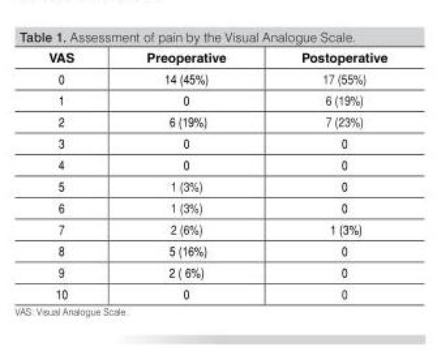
<table><thead><tr><td>VAS</td><td>Preoperative</td><td>Postoperative</td></tr></thead><tbody><tr><td>0</td><td>14 (45%)</td><td>17 (55%)</td></tr><tr><td>1</td><td>0</td><td>6 (19%)</td></tr><tr><td>2</td><td>6 (19%)</td><td>7 (23%)</td></tr><tr><td>3</td><td>0</td><td>0</td></tr><tr><td>4</td><td>0</td><td>0</td></tr><tr><td>5</td><td>1 (3%)</td><td>0</td></tr><tr><td>6</td><td>1 (3%)</td><td>0</td></tr><tr><td>7</td><td>2 (6%)</td><td>1 (3%)</td></tr><tr><td>8</td><td>5 (16%)</td><td>0</td></tr><tr><td>9</td><td>2 ( 6%)</td><td>0</td></tr><tr><td>10</td><td>0</td><td>0</td></tr></tbody></table>